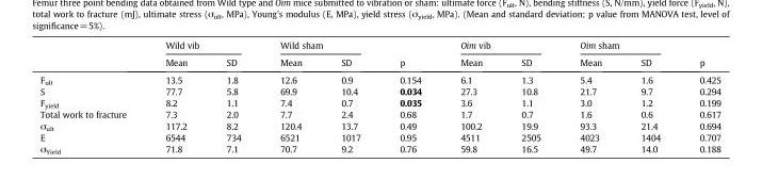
<table><thead><tr><td rowspan="2"></td><td colspan="2">Wild vib</td><td colspan="2">Wild sham</td><td rowspan="2">p</td><td colspan="2">Oim vib</td><td colspan="2">Oim sham</td><td rowspan="2">p</td></tr><tr><td>Mean</td><td>SD</td><td>Mean</td><td>SD</td><td>Mean</td><td>SD</td><td>Mean</td><td>SD</td></tr></thead><tbody><tr><td>F<sub>ult</sub></td><td>13.5</td><td>1.8</td><td>12.6</td><td>0.9</td><td>0.154</td><td>6.1</td><td>1.3</td><td>5.4</td><td>1.6</td><td>0.425</td></tr><tr><td>S</td><td>77.7</td><td>5.8</td><td>69.9</td><td>10.4</td><td>0.034</td><td>27.3</td><td>10.8</td><td>21.7</td><td>9.7</td><td>0.294</td></tr><tr><td>F<sub>yield</sub></td><td>8.2</td><td>1.1</td><td>7.4</td><td>0.7</td><td>0.035</td><td>3.6</td><td>1.1</td><td>3.0</td><td>1.2</td><td>0.199</td></tr><tr><td>Total work to fracture</td><td>7.3</td><td>2.0</td><td>7.7</td><td>2.4</td><td>0.68</td><td>1.7</td><td>0.7</td><td>1.6</td><td>0.6</td><td>0.617</td></tr><tr><td>σ<sub>ult</sub></td><td>117.2</td><td>8.2</td><td>120.4</td><td>13.7</td><td>0.49</td><td>100.2</td><td>19.9</td><td>93.3</td><td>21.4</td><td>0.694</td></tr><tr><td>E</td><td>6544</td><td>734</td><td>6521</td><td>1017</td><td>0.95</td><td>4511</td><td>2505</td><td>4023</td><td>1404</td><td>0.707</td></tr><tr><td>σ<sub>Yield</sub></td><td>71.8</td><td>7.1</td><td>70.7</td><td>9.2</td><td>0.76</td><td>59.8</td><td>16.5</td><td>49.7</td><td>14.0</td><td>0.188</td></tr></tbody></table>